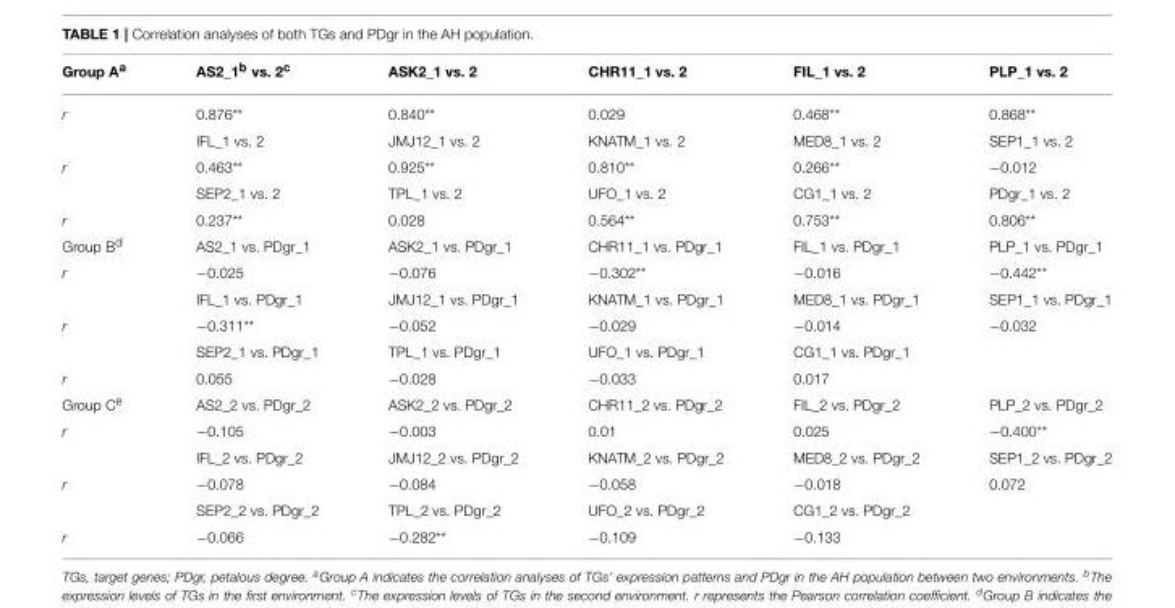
<table><thead><tr><td>Group A<sup>a</sup></td><td>AS2_1<sup>b</sup> vs. 2<sup>c</sup></td><td>ASK2_1 vs. 2</td><td>CHR11_1 vs. 2</td><td>FIL_1 vs. 2</td><td>PLP_1 vs. 2</td></tr></thead><tbody><tr><td rowspan="2">r</td><td>0.876**</td><td>0.840**</td><td>0.029</td><td>0.468**</td><td>0.868**</td></tr><tr><td>IFL_1 vs. 2</td><td>JMJ12_1 vs. 2</td><td>KNATM_1 vs. 2</td><td>MED8_1 vs. 2</td><td>SEP1_1 vs. 2</td></tr><tr><td rowspan="2">r</td><td>0.463**</td><td>0.925**</td><td>0.810**</td><td>0.266**</td><td>−0.012</td></tr><tr><td>SEP2_1 vs. 2</td><td>TPL_1 vs. 2</td><td>UFO_1 vs. 2</td><td>CG1_1 vs. 2</td><td>PDgr_1 vs. 2</td></tr><tr><td>r</td><td>0.237**</td><td>0.028</td><td>0.564**</td><td>0.753**</td><td>0.806**</td></tr><tr><td>Group B<sup>d</sup></td><td>AS2_1 vs. PDgr_1</td><td>ASK2_1 vs. PDgr_1</td><td>CHR11_1 vs. PDgr_1</td><td>FIL_1 vs. PDgr_1</td><td>PLP_1 vs. PDgr_1</td></tr><tr><td rowspan="2">r</td><td>−0.025</td><td>−0.076</td><td>−0.302**</td><td>−0.016</td><td>−0.442**</td></tr><tr><td>IFL_1 vs. PDgr_1</td><td>JMJ12_1 vs. PDgr_1</td><td>KNATM_1 vs. PDgr_1</td><td>MED8_1 vs. PDgr_1</td><td>SEP1_1 vs. PDgr_1</td></tr><tr><td rowspan="2">r</td><td>−0.311**</td><td>−0.052</td><td>−0.029</td><td>−0.014</td><td>−0.032</td></tr><tr><td>SEP2_1 vs. PDgr_1</td><td>TPL_1 vs. PDgr_1</td><td>UFO_1 vs. PDgr_1</td><td>CG1_1 vs. PDgr_1</td><td></td></tr><tr><td>r</td><td>0.055</td><td>−0.028</td><td>−0.033</td><td>0.017</td><td></td></tr><tr><td>Group C<sup>e</sup></td><td>AS2_2 vs. PDgr_2</td><td>ASK2_2 vs. PDgr_2</td><td>CHR11_2 vs. PDgr_2</td><td>FIL_2 vs. PDgr_2</td><td>PLP_2 vs. PDgr_2</td></tr><tr><td rowspan="2">r</td><td>−0.105</td><td>−0.003</td><td>0.01</td><td>0.025</td><td>−0.400**</td></tr><tr><td>IFL_2 vs. PDgr_2</td><td>JMJ12_2 vs. PDgr_2</td><td>KNATM_2 vs. PDgr_2</td><td>MED8_2 vs. PDgr_2</td><td>SEP1_2 vs. PDgr_2</td></tr><tr><td rowspan="2">r</td><td>−0.078</td><td>−0.084</td><td>−0.058</td><td>−0.018</td><td>0.072</td></tr><tr><td>SEP2_2 vs. PDgr_2</td><td>TPL_2 vs. PDgr_2</td><td>UFO_2 vs. PDgr_2</td><td>CG1_2 vs. PDgr_2</td><td></td></tr><tr><td>r</td><td>−0.066</td><td>−0.282**</td><td>−0.109</td><td>−0.133</td><td></td></tr></tbody></table>